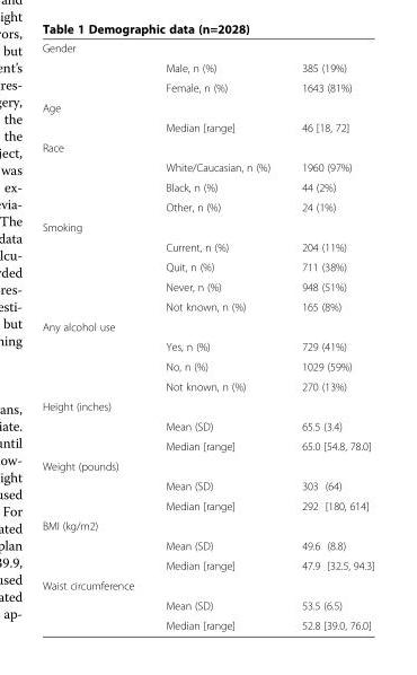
<table><tbody><tr><td colspan="3">Gender</td></tr><tr><td></td><td>Male, n (%)</td><td>385 (19%)</td></tr><tr><td></td><td>Female, n (%)</td><td>1643 (81%)</td></tr><tr><td colspan="3">Age</td></tr><tr><td></td><td>Median [range]</td><td>46 [18, 72]</td></tr><tr><td colspan="3">Race</td></tr><tr><td></td><td>White/Caucasian, n (%)</td><td>1960 (97%)</td></tr><tr><td></td><td>Black, n (%)</td><td>44 (2%)</td></tr><tr><td></td><td>Other, n (%)</td><td>24 (1%)</td></tr><tr><td colspan="3">Smoking</td></tr><tr><td></td><td>Current, n (%)</td><td>204 (11%)</td></tr><tr><td></td><td>Quit, n (%)</td><td>711 (38%)</td></tr><tr><td></td><td>Never, n (%)</td><td>948 (51%)</td></tr><tr><td></td><td>Not known, n (%)</td><td>165 (8%)</td></tr><tr><td colspan="3">Any alcohol use</td></tr><tr><td></td><td>Yes, n (%)</td><td>729 (41%)</td></tr><tr><td></td><td>No, n (%)</td><td>1029 (59%)</td></tr><tr><td></td><td>Not known, n (%)</td><td>270 (13%)</td></tr><tr><td colspan="3">Height (inches)</td></tr><tr><td></td><td>Mean (SD)</td><td>65.5 (3.4)</td></tr><tr><td></td><td>Median [range]</td><td>65.0 [54.8, 78.0]</td></tr><tr><td colspan="3">Weight (pounds)</td></tr><tr><td></td><td>Mean (SD)</td><td>303 (64)</td></tr><tr><td></td><td>Median [range]</td><td>292 [180, 614]</td></tr><tr><td colspan="3">BMI (kg/m2)</td></tr><tr><td></td><td>Mean (SD)</td><td>49.6 (8.8)</td></tr><tr><td></td><td>Median [range]</td><td>47.9 [32.5, 94.3]</td></tr><tr><td colspan="3">Waist circumference</td></tr><tr><td></td><td>Mean (SD)</td><td>53.5 (6.5)</td></tr><tr><td></td><td>Median [range]</td><td>52.8 [39.0, 76.0]</td></tr></tbody></table>